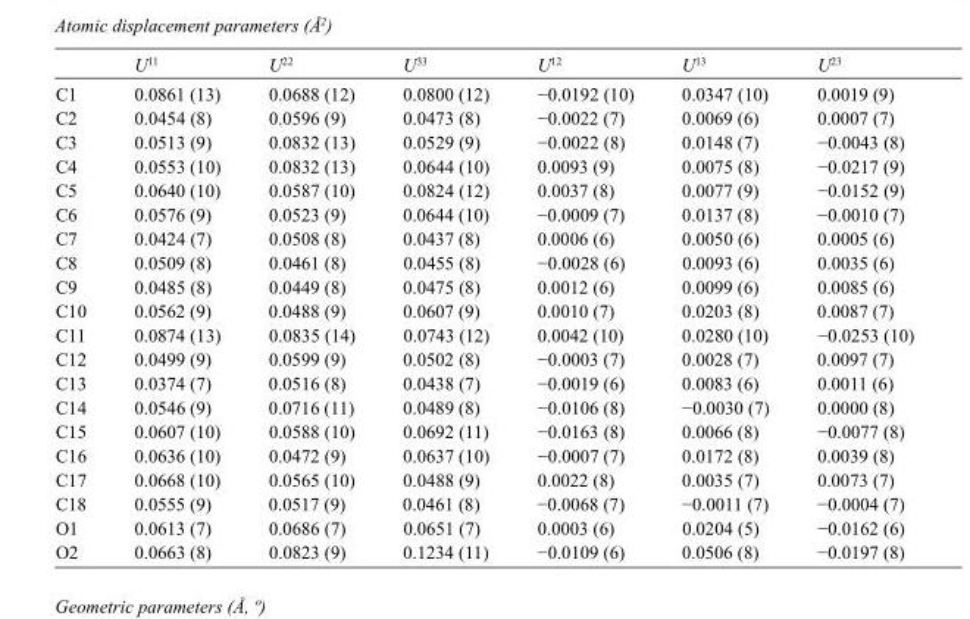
<table><thead><tr><td></td><td>U<sup>11</sup></td><td>U<sup>22</sup></td><td>U<sup>33</sup></td><td>U<sup>12</sup></td><td>U<sup>13</sup></td><td>U<sup>23</sup></td></tr></thead><tbody><tr><td>C1</td><td>0.0861 (13)</td><td>0.0688 (12)</td><td>0.0800 (12)</td><td>−0.0192 (10)</td><td>0.0347 (10)</td><td>0.0019 (9)</td></tr><tr><td>C2</td><td>0.0454 (8)</td><td>0.0596 (9)</td><td>0.0473 (8)</td><td>−0.0022 (7)</td><td>0.0069 (6)</td><td>0.0007 (7)</td></tr><tr><td>C3</td><td>0.0513 (9)</td><td>0.0832 (13)</td><td>0.0529 (9)</td><td>−0.0022 (8)</td><td>0.0148 (7)</td><td>−0.0043 (8)</td></tr><tr><td>C4</td><td>0.0553 (10)</td><td>0.0832 (13)</td><td>0.0644 (10)</td><td>0.0093 (9)</td><td>0.0075 (8)</td><td>−0.0217 (9)</td></tr><tr><td>C5</td><td>0.0640 (10)</td><td>0.0587 (10)</td><td>0.0824 (12)</td><td>0.0037 (8)</td><td>0.0077 (9)</td><td>−0.0152 (9)</td></tr><tr><td>C6</td><td>0.0576 (9)</td><td>0.0523 (9)</td><td>0.0644 (10)</td><td>−0.0009 (7)</td><td>0.0137 (8)</td><td>−0.0010 (7)</td></tr><tr><td>C7</td><td>0.0424 (7)</td><td>0.0508 (8)</td><td>0.0437 (8)</td><td>0.0006 (6)</td><td>0.0050 (6)</td><td>0.0005 (6)</td></tr><tr><td>C8</td><td>0.0509 (8)</td><td>0.0461 (8)</td><td>0.0455 (8)</td><td>−0.0028 (6)</td><td>0.0093 (6)</td><td>0.0035 (6)</td></tr><tr><td>C9</td><td>0.0485 (8)</td><td>0.0449 (8)</td><td>0.0475 (8)</td><td>0.0012 (6)</td><td>0.0099 (6)</td><td>0.0085 (6)</td></tr><tr><td>C10</td><td>0.0562 (9)</td><td>0.0488 (9)</td><td>0.0607 (9)</td><td>0.0010 (7)</td><td>0.0203 (8)</td><td>0.0087 (7)</td></tr><tr><td>C11</td><td>0.0874 (13)</td><td>0.0835 (14)</td><td>0.0743 (12)</td><td>0.0042 (10)</td><td>0.0280 (10)</td><td>−0.0253 (10)</td></tr><tr><td>C12</td><td>0.0499 (9)</td><td>0.0599 (9)</td><td>0.0502 (8)</td><td>−0.0003 (7)</td><td>0.0028 (7)</td><td>0.0097 (7)</td></tr><tr><td>C13</td><td>0.0374 (7)</td><td>0.0516 (8)</td><td>0.0438 (7)</td><td>−0.0019 (6)</td><td>0.0083 (6)</td><td>0.0011 (6)</td></tr><tr><td>C14</td><td>0.0546 (9)</td><td>0.0716 (11)</td><td>0.0489 (8)</td><td>−0.0106 (8)</td><td>−0.0030 (7)</td><td>0.0000 (8)</td></tr><tr><td>C15</td><td>0.0607 (10)</td><td>0.0588 (10)</td><td>0.0692 (11)</td><td>−0.0163 (8)</td><td>0.0066 (8)</td><td>−0.0077 (8)</td></tr><tr><td>C16</td><td>0.0636 (10)</td><td>0.0472 (9)</td><td>0.0637 (10)</td><td>−0.0007 (7)</td><td>0.0172 (8)</td><td>0.0039 (8)</td></tr><tr><td>C17</td><td>0.0668 (10)</td><td>0.0565 (10)</td><td>0.0488 (9)</td><td>0.0022 (8)</td><td>0.0035 (7)</td><td>0.0073 (7)</td></tr><tr><td>C18</td><td>0.0555 (9)</td><td>0.0517 (9)</td><td>0.0461 (8)</td><td>−0.0068 (7)</td><td>−0.0011 (7)</td><td>−0.0004 (7)</td></tr><tr><td>O1</td><td>0.0613 (7)</td><td>0.0686 (7)</td><td>0.0651 (7)</td><td>0.0003 (6)</td><td>0.0204 (5)</td><td>−0.0162 (6)</td></tr><tr><td>O2</td><td>0.0663 (8)</td><td>0.0823 (9)</td><td>0.1234 (11)</td><td>−0.0109 (6)</td><td>0.0506 (8)</td><td>−0.0197 (8)</td></tr></tbody></table>